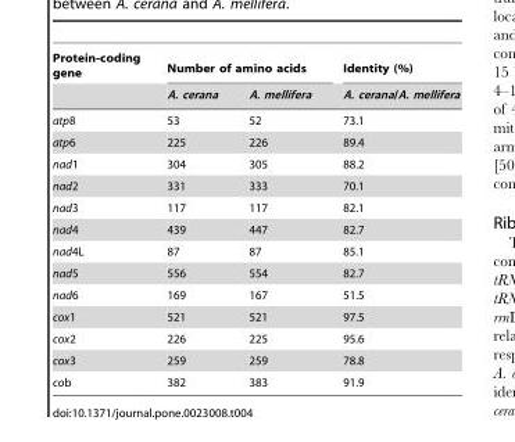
<table><thead><tr><td rowspan="2">Protein-coding gene</td><td colspan="2">Number of amino acids</td><td rowspan="2">Identity (%) A. cerana/A. mellifera</td></tr><tr><td>A. cerana</td><td>A. mellifera</td></tr></thead><tbody><tr><td>atp8</td><td>53</td><td>52</td><td>73.1</td></tr><tr><td>atp6</td><td>225</td><td>226</td><td>89.4</td></tr><tr><td>nad1</td><td>304</td><td>305</td><td>88.2</td></tr><tr><td>nad2</td><td>331</td><td>333</td><td>70.1</td></tr><tr><td>nad3</td><td>117</td><td>117</td><td>82.1</td></tr><tr><td>nad4</td><td>439</td><td>447</td><td>82.7</td></tr><tr><td>nad4L</td><td>87</td><td>87</td><td>85.1</td></tr><tr><td>nad5</td><td>556</td><td>554</td><td>82.7</td></tr><tr><td>nad6</td><td>169</td><td>167</td><td>51.5</td></tr><tr><td>cox1</td><td>521</td><td>521</td><td>97.5</td></tr><tr><td>cox2</td><td>226</td><td>225</td><td>95.6</td></tr><tr><td>cox3</td><td>259</td><td>259</td><td>78.8</td></tr><tr><td>cob</td><td>382</td><td>383</td><td>91.9</td></tr></tbody></table>